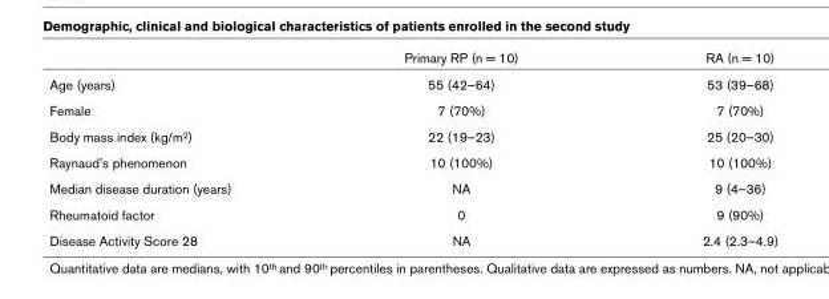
<table><thead><tr><td></td><td>Primary RP (n = 10)</td><td>RA (n = 10)</td></tr></thead><tbody><tr><td>Age (years)</td><td>55 (42–64)</td><td>53 (39–68)</td></tr><tr><td>Female</td><td>7 (70%)</td><td>7 (70%)</td></tr><tr><td>Body mass index (kg/m2)</td><td>22 (19–23)</td><td>25 (20–30)</td></tr><tr><td>Raynaud&#x27;s phenomenon</td><td>10 (100%)</td><td>10 (100%)</td></tr><tr><td>Median disease duration (years)</td><td>NA</td><td>9 (4–36)</td></tr><tr><td>Rheumatoid factor</td><td>0</td><td>9 (90%)</td></tr><tr><td>Disease Activity Score 28</td><td>NA</td><td>2.4 (2.3–4.9)</td></tr></tbody></table>